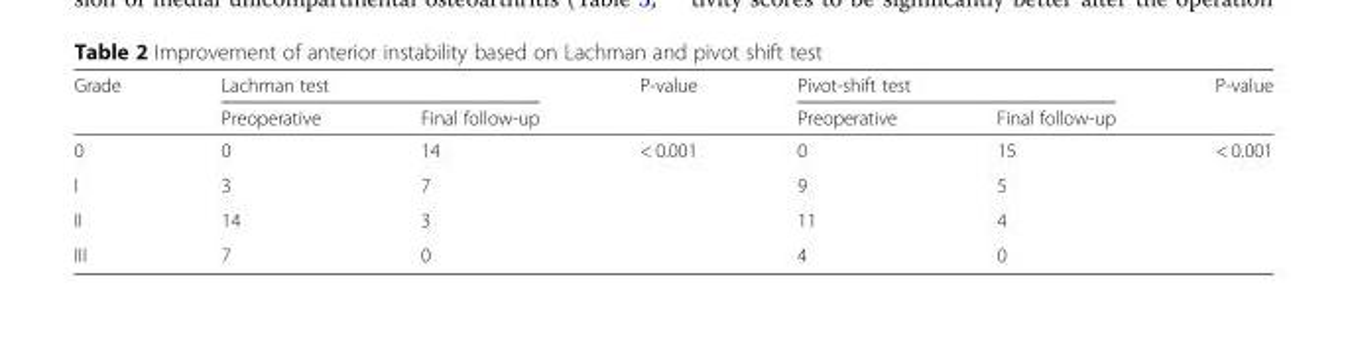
<table><thead><tr><td rowspan="2">Grade</td><td colspan="2">Lachman test</td><td rowspan="2">P-value</td><td colspan="2">Pivot-shift test</td><td rowspan="2">P-value</td></tr><tr><td>Preoperative</td><td>Final follow-up</td><td>Preoperative</td><td>Final follow-up</td></tr></thead><tbody><tr><td>0</td><td>0</td><td>14</td><td>&lt; 0.001</td><td>0</td><td>15</td><td>&lt; 0.001</td></tr><tr><td>I</td><td>3</td><td>7</td><td></td><td>9</td><td>5</td><td></td></tr><tr><td>II</td><td>14</td><td>3</td><td></td><td>11</td><td>4</td><td></td></tr><tr><td>III</td><td>7</td><td>0</td><td></td><td>4</td><td>0</td><td></td></tr></tbody></table>